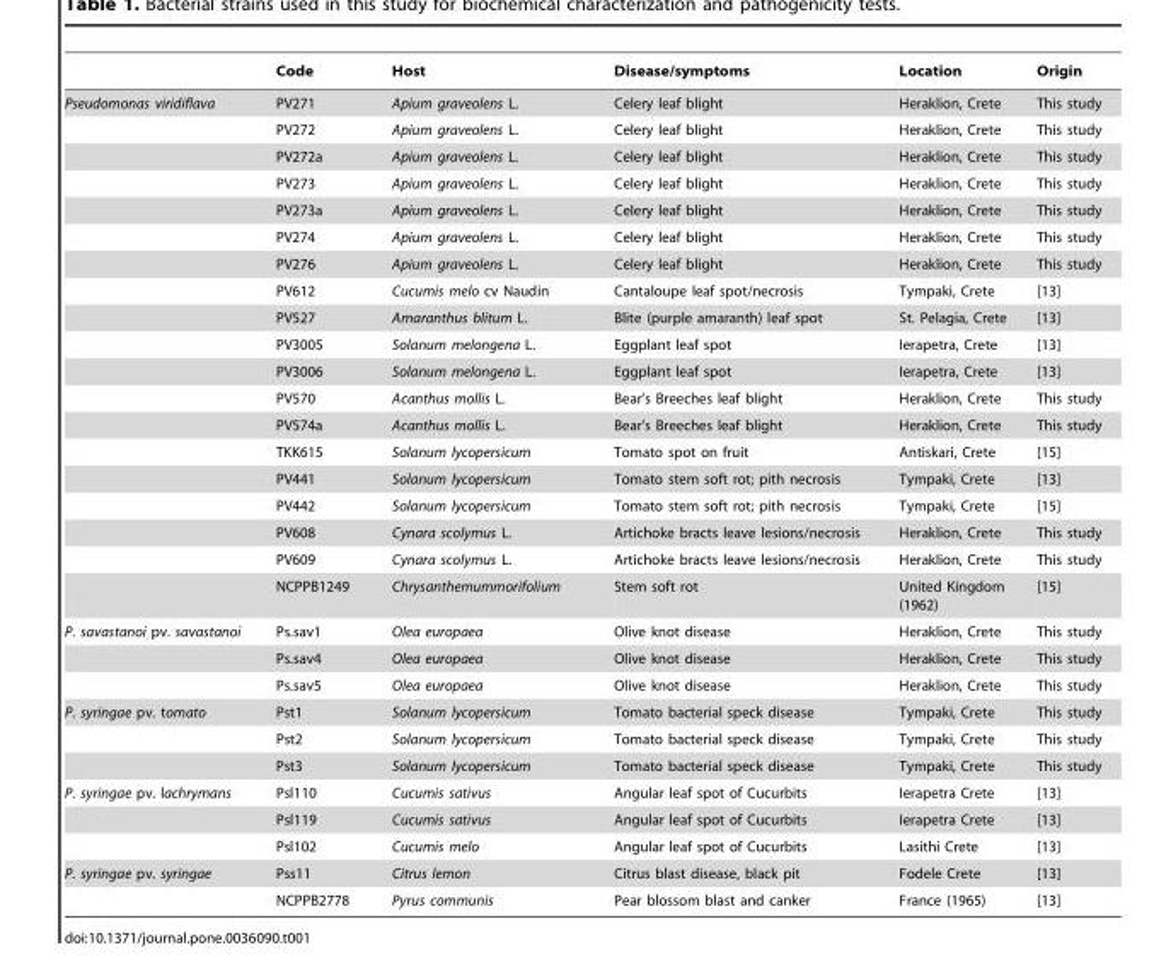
<table><thead><tr><td></td><td>Code</td><td>Host</td><td>Disease/symptoms</td><td>Location</td><td>Origin</td></tr></thead><tbody><tr><td rowspan="19">Pseudomonas viridiflava</td><td>PV271</td><td>Apium graveolens L.</td><td>Celery leaf blight</td><td>Heraklion, Crete</td><td>This study</td></tr><tr><td>PV272</td><td>Apium graveolens L.</td><td>Celery leaf blight</td><td>Heraklion, Crete</td><td>This study</td></tr><tr><td>PV272a</td><td>Apium graveolens L.</td><td>Celery leaf blight</td><td>Heraklion, Crete</td><td>This study</td></tr><tr><td>PV273</td><td>Apium graveolens L.</td><td>Celery leaf blight</td><td>Heraklion, Crete</td><td>This study</td></tr><tr><td>PV273a</td><td>Apium graveolens L.</td><td>Celery leaf blight</td><td>Heraklion, Crete</td><td>This study</td></tr><tr><td>PV274</td><td>Apium graveolens L.</td><td>Celery leaf blight</td><td>Heraklion, Crete</td><td>This study</td></tr><tr><td>PV276</td><td>Apium graveolens L.</td><td>Celery leaf blight</td><td>Heraklion, Crete</td><td>This study</td></tr><tr><td>PV612</td><td>Cucumis melo cv Naudin</td><td>Cantaloupe leaf spot/necrosis</td><td>Tympaki, Crete</td><td>[13]</td></tr><tr><td>PV527</td><td>Amaranthus blitum L.</td><td>Blite (purple amaranth) leaf spot</td><td>St. Pelagia, Crete</td><td>[13]</td></tr><tr><td>PV3005</td><td>Solanum melongena L.</td><td>Eggplant leaf spot</td><td>Ierapetra, Crete</td><td>[13]</td></tr><tr><td>PV3006</td><td>Solanum melongena L.</td><td>Eggplant leaf spot</td><td>Ierapetra, Crete</td><td>[13]</td></tr><tr><td>PV570</td><td>Acanthus mollis L.</td><td>Bear’s Breeches leaf blight</td><td>Heraklion, Crete</td><td>This study</td></tr><tr><td>PV574a</td><td>Acanthus mollis L.</td><td>Bear’s Breeches leaf blight</td><td>Heraklion, Crete</td><td>This study</td></tr><tr><td>TKK615</td><td>Solanum lycopersicum</td><td>Tomato spot on fruit</td><td>Antiskari, Crete</td><td>[15]</td></tr><tr><td>PV441</td><td>Solanum lycopersicum</td><td>Tomato stem soft rot; pith necrosis</td><td>Tympaki, Crete</td><td>[13]</td></tr><tr><td>PV442</td><td>Solanum lycopersicum</td><td>Tomato stem soft rot; pith necrosis</td><td>Tympaki, Crete</td><td>[15]</td></tr><tr><td>PV608</td><td>Cynara scolymus L.</td><td>Artichoke bracts leave lesions/necrosis</td><td>Heraklion, Crete</td><td>This study</td></tr><tr><td>PV609</td><td>Cynara scolymus L.</td><td>Artichoke bracts leave lesions/necrosis</td><td>Heraklion, Crete</td><td>This study</td></tr><tr><td>NCPPB1249</td><td>Chrysanthemummorifolium</td><td>Stem soft rot</td><td>United Kingdom (1962)</td><td>[15]</td></tr><tr><td rowspan="3">P. savastanoi pv. savastanoi</td><td>Ps.sav1</td><td>Olea europaea</td><td>Olive knot disease</td><td>Heraklion, Crete</td><td>This study</td></tr><tr><td>Ps.sav4</td><td>Olea europaea</td><td>Olive knot disease</td><td>Heraklion, Crete</td><td>This study</td></tr><tr><td>Ps.sav5</td><td>Olea europaea</td><td>Olive knot disease</td><td>Heraklion, Crete</td><td>This study</td></tr><tr><td rowspan="3">P. syringae pv. tomato</td><td>Pst1</td><td>Solanum lycopersicum</td><td>Tomato bacterial speck disease</td><td>Tympaki, Crete</td><td>This study</td></tr><tr><td>Pst2</td><td>Solanum lycopersicum</td><td>Tomato bacterial speck disease</td><td>Tympaki, Crete</td><td>This study</td></tr><tr><td>Pst3</td><td>Solanum lycopersicum</td><td>Tomato bacterial speck disease</td><td>Tympaki, Crete</td><td>This study</td></tr><tr><td rowspan="3">P. syringae pv. lachrymans</td><td>Psl110</td><td>Cucumis sativus</td><td>Angular leaf spot of Cucurbits</td><td>Ierapetra Crete</td><td>[13]</td></tr><tr><td>Psl119</td><td>Cucumis sativus</td><td>Angular leaf spot of Cucurbits</td><td>Ierapetra Crete</td><td>[13]</td></tr><tr><td>Psl102</td><td>Cucumis melo</td><td>Angular leaf spot of Cucurbits</td><td>Lasithi Crete</td><td>[13]</td></tr><tr><td rowspan="2">P. syringae pv. syringae</td><td>Pss11</td><td>Citrus lemon</td><td>Citrus blast disease, black pit</td><td>Fodele Crete</td><td>[13]</td></tr><tr><td>NCPPB2778</td><td>Pyrus communis</td><td>Pear blossom blast and canker</td><td>France (1965)</td><td>[13]</td></tr></tbody></table>